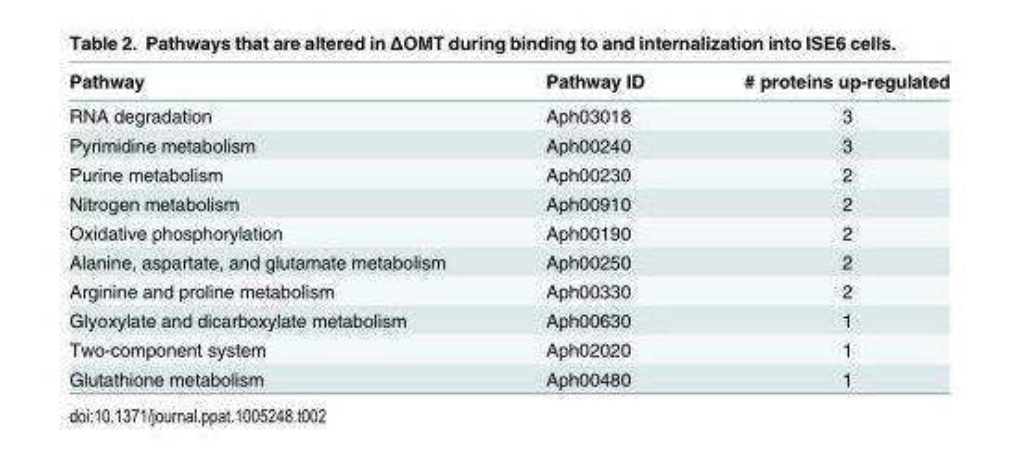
<table><thead><tr><td>Pathway</td><td>Pathway ID</td><td># proteins up-regulated</td></tr></thead><tbody><tr><td>RNA degradation</td><td>Aph03018</td><td>3</td></tr><tr><td>Pyrimidine metabolism</td><td>Aph00240</td><td>3</td></tr><tr><td>Purine metabolism</td><td>Aph00230</td><td>2</td></tr><tr><td>Nitrogen metabolism</td><td>Aph00910</td><td>2</td></tr><tr><td>Oxidative phosphorylation</td><td>Aph00190</td><td>2</td></tr><tr><td>Alanine, aspartate, and glutamate metabolism</td><td>Aph00250</td><td>2</td></tr><tr><td>Arginine and proline metabolism</td><td>Aph00330</td><td>2</td></tr><tr><td>Glyoxylate and dicarboxylate metabolism</td><td>Aph00630</td><td>1</td></tr><tr><td>Two-component system</td><td>Aph02020</td><td>1</td></tr><tr><td>Glutathione metabolism</td><td>Aph00480</td><td>1</td></tr></tbody></table>